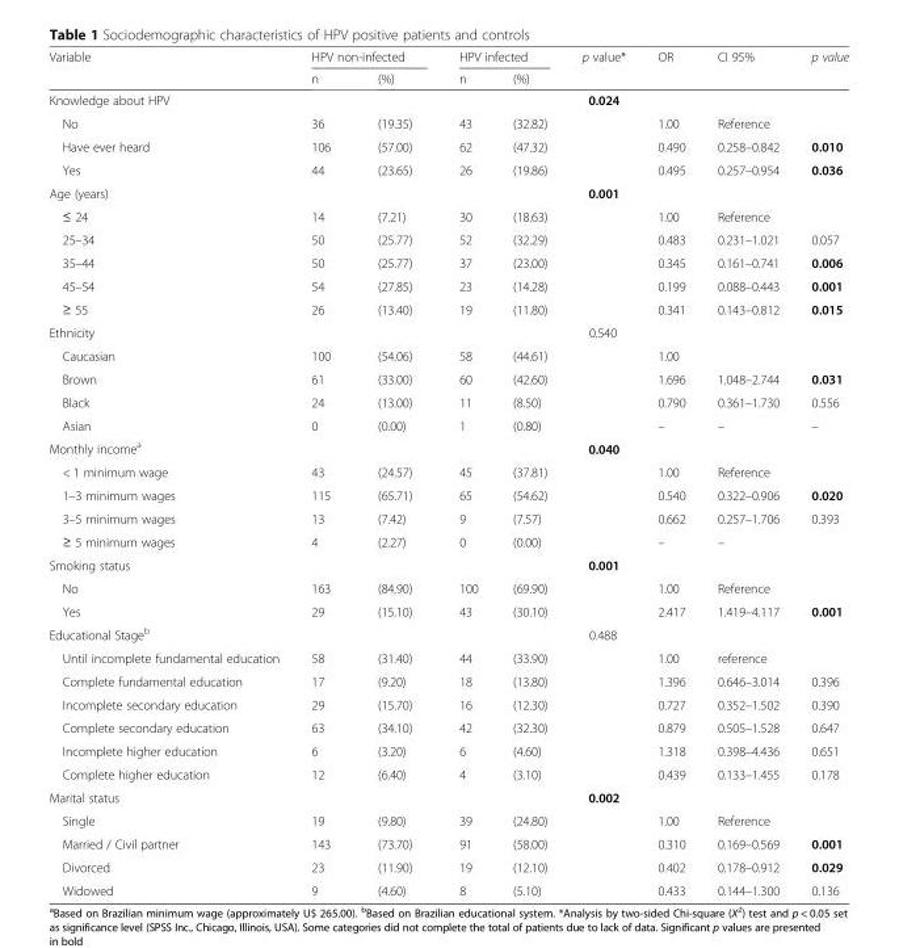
<table><thead><tr><td rowspan="2">Variable</td><td colspan="2">HPV non-infected</td><td colspan="2">HPV infected</td><td rowspan="2">p value*</td><td rowspan="2">OR</td><td rowspan="2">CI 95%</td><td rowspan="2">p value</td></tr><tr><td>n</td><td>(%)</td><td>n</td><td>(%)</td></tr></thead><tbody><tr><td>Knowledge about HPV</td><td></td><td></td><td></td><td></td><td>0.024</td><td></td><td></td><td></td></tr><tr><td>No</td><td>36</td><td>(19.35)</td><td>43</td><td>(32.82)</td><td></td><td>1.00</td><td>Reference</td><td></td></tr><tr><td>Have ever heard</td><td>106</td><td>(57.00)</td><td>62</td><td>(47.32)</td><td></td><td>0.490</td><td>0.258–0.842</td><td>0.010</td></tr><tr><td>Yes</td><td>44</td><td>(23.65)</td><td>26</td><td>(19.86)</td><td></td><td>0.495</td><td>0.257–0.954</td><td>0.036</td></tr><tr><td>Age (years)</td><td></td><td></td><td></td><td></td><td>0.001</td><td></td><td></td><td></td></tr><tr><td>≤ 24</td><td>14</td><td>(7.21)</td><td>30</td><td>(18.63)</td><td></td><td>1.00</td><td>Reference</td><td></td></tr><tr><td>25–34</td><td>50</td><td>(25.77)</td><td>52</td><td>(32.29)</td><td></td><td>0.483</td><td>0.231–1.021</td><td>0.057</td></tr><tr><td>35–44</td><td>50</td><td>(25.77)</td><td>37</td><td>(23.00)</td><td></td><td>0.345</td><td>0.161–0.741</td><td>0.006</td></tr><tr><td>45–54</td><td>54</td><td>(27.85)</td><td>23</td><td>(14.28)</td><td></td><td>0.199</td><td>0.088–0.443</td><td>0.001</td></tr><tr><td>≥ 55</td><td>26</td><td>(13.40)</td><td>19</td><td>(11.80)</td><td></td><td>0.341</td><td>0.143–0.812</td><td>0.015</td></tr><tr><td>Ethnicity</td><td></td><td></td><td></td><td></td><td>0.540</td><td></td><td></td><td></td></tr><tr><td>Caucasian</td><td>100</td><td>(54.06)</td><td>58</td><td>(44.61)</td><td></td><td>1.00</td><td></td><td></td></tr><tr><td>Brown</td><td>61</td><td>(33.00)</td><td>60</td><td>(42.60)</td><td></td><td>1.696</td><td>1.048–2.744</td><td>0.031</td></tr><tr><td>Black</td><td>24</td><td>(13.00)</td><td>11</td><td>(8.50)</td><td></td><td>0.790</td><td>0.361–1.730</td><td>0.556</td></tr><tr><td>Asian</td><td>0</td><td>(0.00)</td><td>1</td><td>(0.80)</td><td></td><td>–</td><td>–</td><td>–</td></tr><tr><td>Monthly income<sup>a</sup></td><td></td><td></td><td></td><td></td><td>0.040</td><td></td><td></td><td></td></tr><tr><td>&lt; 1 minimum wage</td><td>43</td><td>(24.57)</td><td>45</td><td>(37.81)</td><td></td><td>1.00</td><td>Reference</td><td></td></tr><tr><td>1–3 minimum wages</td><td>115</td><td>(65.71)</td><td>65</td><td>(54.62)</td><td></td><td>0.540</td><td>0.322–0.906</td><td>0.020</td></tr><tr><td>3–5 minimum wages</td><td>13</td><td>(7.42)</td><td>9</td><td>(7.57)</td><td></td><td>0.662</td><td>0.257–1.706</td><td>0.393</td></tr><tr><td>≥ 5 minimum wages</td><td>4</td><td>(2.27)</td><td>0</td><td>(0.00)</td><td></td><td>–</td><td>–</td><td></td></tr><tr><td>Smoking status</td><td></td><td></td><td></td><td></td><td>0.001</td><td></td><td></td><td></td></tr><tr><td>No</td><td>163</td><td>(84.90)</td><td>100</td><td>(69.90)</td><td></td><td>1.00</td><td>Reference</td><td></td></tr><tr><td>Yes</td><td>29</td><td>(15.10)</td><td>43</td><td>(30.10)</td><td></td><td>2.417</td><td>1.419–4.117</td><td>0.001</td></tr><tr><td>Educational Stage<sup>b</sup></td><td></td><td></td><td></td><td></td><td>0.488</td><td></td><td></td><td></td></tr><tr><td>Until incomplete fundamental education</td><td>58</td><td>(31.40)</td><td>44</td><td>(33.90)</td><td></td><td>1.00</td><td>reference</td><td></td></tr><tr><td>Complete fundamental education</td><td>17</td><td>(9.20)</td><td>18</td><td>(13.80)</td><td></td><td>1.396</td><td>0.646–3.014</td><td>0.396</td></tr><tr><td>Incomplete secondary education</td><td>29</td><td>(15.70)</td><td>16</td><td>(12.30)</td><td></td><td>0.727</td><td>0.352–1.502</td><td>0.390</td></tr><tr><td>Complete secondary education</td><td>63</td><td>(34.10)</td><td>42</td><td>(32.30)</td><td></td><td>0.879</td><td>0.505–1.528</td><td>0.647</td></tr><tr><td>Incomplete higher education</td><td>6</td><td>(3.20)</td><td>6</td><td>(4.60)</td><td></td><td>1.318</td><td>0.398–4.436</td><td>0.651</td></tr><tr><td>Complete higher education</td><td>12</td><td>(6.40)</td><td>4</td><td>(3.10)</td><td></td><td>0.439</td><td>0.133–1.455</td><td>0.178</td></tr><tr><td>Marital status</td><td></td><td></td><td></td><td></td><td>0.002</td><td></td><td></td><td></td></tr><tr><td>Single</td><td>19</td><td>(9.80)</td><td>39</td><td>(24.80)</td><td></td><td>1.00</td><td>Reference</td><td></td></tr><tr><td>Married / Civil partner</td><td>143</td><td>(73.70)</td><td>91</td><td>(58.00)</td><td></td><td>0.310</td><td>0.169–0.569</td><td>0.001</td></tr><tr><td>Divorced</td><td>23</td><td>(11.90)</td><td>19</td><td>(12.10)</td><td></td><td>0.402</td><td>0.178–0.912</td><td>0.029</td></tr><tr><td>Widowed</td><td>9</td><td>(4.60)</td><td>8</td><td>(5.10)</td><td></td><td>0.433</td><td>0.144–1.300</td><td>0.136</td></tr></tbody></table>